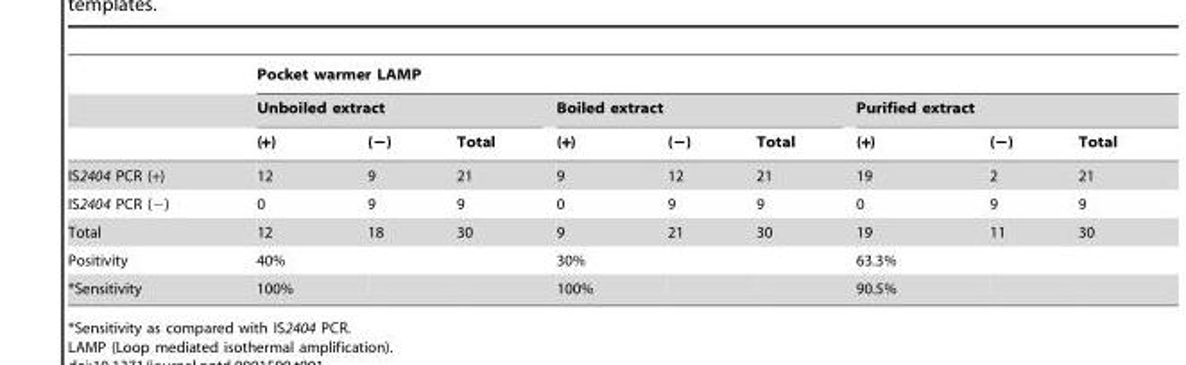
<table><thead><tr><td rowspan="3"></td><td colspan="9">Pocket warmer LAMP</td></tr><tr><td colspan="3">Unboiled extract</td><td colspan="3">Boiled extract</td><td colspan="3">Purified extract</td></tr><tr><td>(+)</td><td>(−)</td><td>Total</td><td>(+)</td><td>(−)</td><td>Total</td><td>(+)</td><td>(−)</td><td>Total</td></tr></thead><tbody><tr><td>IS2404 PCR (+)</td><td>12</td><td>9</td><td>21</td><td>9</td><td>12</td><td>21</td><td>19</td><td>2</td><td>21</td></tr><tr><td>IS2404 PCR (−)</td><td>0</td><td>9</td><td>9</td><td>0</td><td>9</td><td>9</td><td>0</td><td>9</td><td>9</td></tr><tr><td>Total</td><td>12</td><td>18</td><td>30</td><td>9</td><td>21</td><td>30</td><td>19</td><td>11</td><td>30</td></tr><tr><td>Positivity</td><td>40%</td><td></td><td></td><td>30%</td><td></td><td></td><td>63.3%</td><td></td><td></td></tr><tr><td>*Sensitivity</td><td>100%</td><td></td><td></td><td>100%</td><td></td><td></td><td>90.5%</td><td></td><td></td></tr></tbody></table>